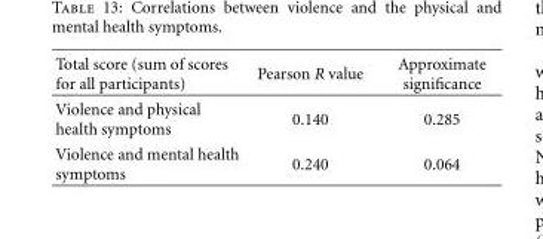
<table><thead><tr><td>Total score (sum of scores for all participants)</td><td>Pearson R value</td><td>Approximate significance</td></tr></thead><tbody><tr><td>Violence and physical health symptoms</td><td>0.140</td><td>0.285</td></tr><tr><td>Violence and mental health symptoms</td><td>0.240</td><td>0.064</td></tr></tbody></table>